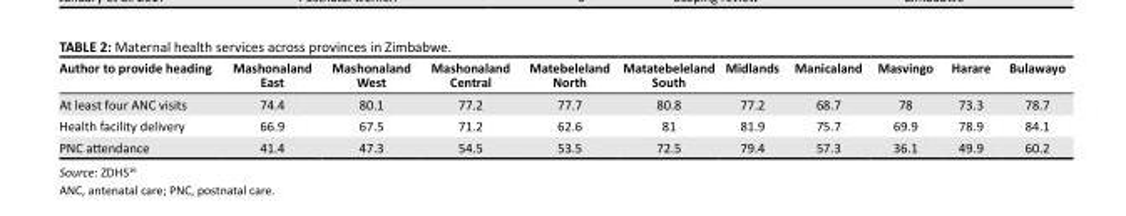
<table><thead><tr><td>Author to provide heading</td><td>Mashonaland East</td><td>Mashonaland West</td><td>Mashonaland Central</td><td>Matebeleland North</td><td>Matatebeleland South</td><td>Midlands</td><td>Manicaland</td><td>Masvingo</td><td>Harare</td><td>Bulawayo</td></tr></thead><tbody><tr><td>At least four ANC visits</td><td>74.4</td><td>80.1</td><td>77.2</td><td>77.7</td><td>80.8</td><td>77.2</td><td>68.7</td><td>78</td><td>73.3</td><td>78.7</td></tr><tr><td>Health facility delivery</td><td>66.9</td><td>67.5</td><td>71.2</td><td>62.6</td><td>81</td><td>81.9</td><td>75.7</td><td>69.9</td><td>78.9</td><td>84.1</td></tr><tr><td>PNC attendance</td><td>41.4</td><td>47.3</td><td>54.5</td><td>53.5</td><td>72.5</td><td>79.4</td><td>57.3</td><td>36.1</td><td>49.9</td><td>60.2</td></tr></tbody></table>